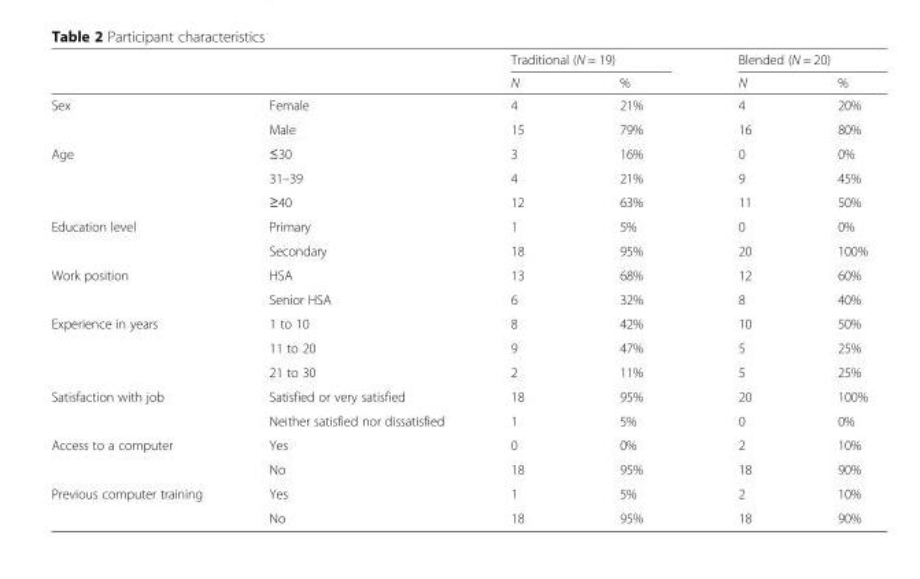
<table><thead><tr><td rowspan="2"></td><td rowspan="2"></td><td colspan="2">Traditional (N = 19)</td><td colspan="2">Blended (N = 20)</td></tr><tr><td>N</td><td>%</td><td>N</td><td>%</td></tr></thead><tbody><tr><td rowspan="2">Sex</td><td>Female</td><td>4</td><td>21%</td><td>4</td><td>20%</td></tr><tr><td>Male</td><td>15</td><td>79%</td><td>16</td><td>80%</td></tr><tr><td rowspan="3">Age</td><td>≤30</td><td>3</td><td>16%</td><td>0</td><td>0%</td></tr><tr><td>31–39</td><td>4</td><td>21%</td><td>9</td><td>45%</td></tr><tr><td>≥40</td><td>12</td><td>63%</td><td>11</td><td>50%</td></tr><tr><td rowspan="2">Education level</td><td>Primary</td><td>1</td><td>5%</td><td>0</td><td>0%</td></tr><tr><td>Secondary</td><td>18</td><td>95%</td><td>20</td><td>100%</td></tr><tr><td rowspan="2">Work position</td><td>HSA</td><td>13</td><td>68%</td><td>12</td><td>60%</td></tr><tr><td>Senior HSA</td><td>6</td><td>32%</td><td>8</td><td>40%</td></tr><tr><td rowspan="3">Experience in years</td><td>1 to 10</td><td>8</td><td>42%</td><td>10</td><td>50%</td></tr><tr><td>11 to 20</td><td>9</td><td>47%</td><td>5</td><td>25%</td></tr><tr><td>21 to 30</td><td>2</td><td>11%</td><td>5</td><td>25%</td></tr><tr><td rowspan="2">Satisfaction with job</td><td>Satisfied or very satisfied</td><td>18</td><td>95%</td><td>20</td><td>100%</td></tr><tr><td>Neither satisfied nor dissatisfied</td><td>1</td><td>5%</td><td>0</td><td>0%</td></tr><tr><td rowspan="2">Access to a computer</td><td>Yes</td><td>0</td><td>0%</td><td>2</td><td>10%</td></tr><tr><td>No</td><td>18</td><td>95%</td><td>18</td><td>90%</td></tr><tr><td rowspan="2">Previous computer training</td><td>Yes</td><td>1</td><td>5%</td><td>2</td><td>10%</td></tr><tr><td>No</td><td>18</td><td>95%</td><td>18</td><td>90%</td></tr></tbody></table>